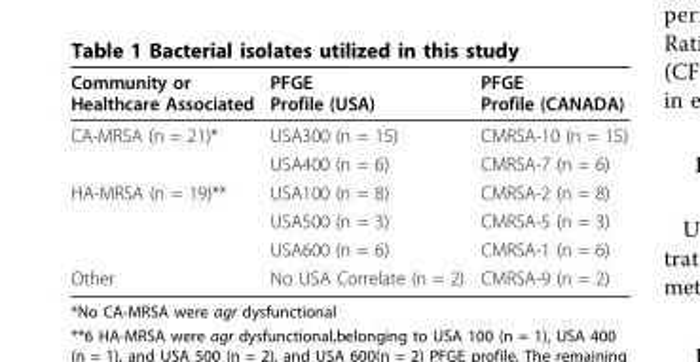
<table><thead><tr><td>Community or Healthcare Associated</td><td>PFGE Profile (USA)</td><td>PFGE Profile (CANADA)</td></tr></thead><tbody><tr><td rowspan="2">CA-MRSA (n = 21)*</td><td>USA300 (n = 15)</td><td>CMRSA-10 (n = 15)</td></tr><tr><td>USA400 (n = 6)</td><td>CMRSA-7 (n = 6)</td></tr><tr><td rowspan="3">HA-MRSA (n = 19)**</td><td>USA100 (n = 8)</td><td>CMRSA-2 (n = 8)</td></tr><tr><td>USA500 (n = 3)</td><td>CMRSA-5 (n = 3)</td></tr><tr><td>USA600 (n = 6)</td><td>CMRSA-1 (n = 6)</td></tr><tr><td>Other</td><td>No USA Correlate (n = 2)</td><td>CMRSA-9 (n = 2)</td></tr></tbody></table>